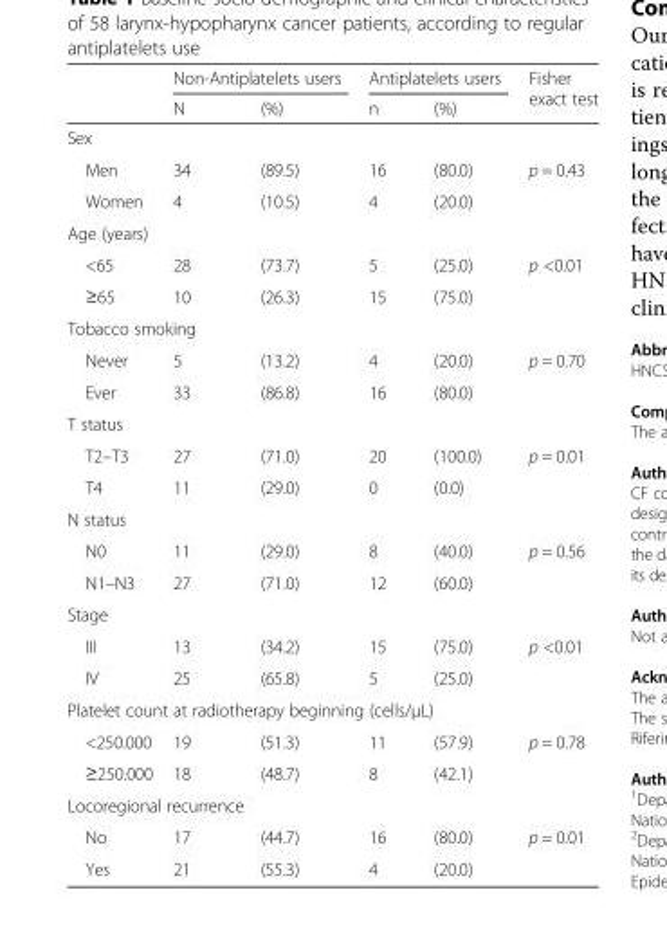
<table><thead><tr><td rowspan="2"></td><td colspan="2">Non-Antiplatelets users</td><td colspan="2">Antiplatelets users</td><td rowspan="2">Fisher exact test</td></tr><tr><td>N</td><td>(%)</td><td>n</td><td>(%)</td></tr></thead><tbody><tr><td colspan="6">Sex</td></tr><tr><td>Men</td><td>34</td><td>(89.5)</td><td>16</td><td>(80.0)</td><td>p = 0.43</td></tr><tr><td>Women</td><td>4</td><td>(10.5)</td><td>4</td><td>(20.0)</td><td></td></tr><tr><td colspan="6">Age (years)</td></tr><tr><td>&lt;65</td><td>28</td><td>(73.7)</td><td>5</td><td>(25.0)</td><td>p &lt;0.01</td></tr><tr><td>≥65</td><td>10</td><td>(26.3)</td><td>15</td><td>(75.0)</td><td></td></tr><tr><td colspan="6">Tobacco smoking</td></tr><tr><td>Never</td><td>5</td><td>(13.2)</td><td>4</td><td>(20.0)</td><td>p = 0.70</td></tr><tr><td>Ever</td><td>33</td><td>(86.8)</td><td>16</td><td>(80.0)</td><td></td></tr><tr><td colspan="6">T status</td></tr><tr><td>T2–T3</td><td>27</td><td>(71.0)</td><td>20</td><td>(100.0)</td><td>p = 0.01</td></tr><tr><td>T4</td><td>11</td><td>(29.0)</td><td>0</td><td>(0.0)</td><td></td></tr><tr><td colspan="6">N status</td></tr><tr><td>N0</td><td>11</td><td>(29.0)</td><td>8</td><td>(40.0)</td><td>p = 0.56</td></tr><tr><td>N1–N3</td><td>27</td><td>(71.0)</td><td>12</td><td>(60.0)</td><td></td></tr><tr><td colspan="6">Stage</td></tr><tr><td>III</td><td>13</td><td>(34.2)</td><td>15</td><td>(75.0)</td><td>p &lt;0.01</td></tr><tr><td>IV</td><td>25</td><td>(65.8)</td><td>5</td><td>(25.0)</td><td></td></tr><tr><td colspan="6">Platelet count at radiotherapy beginning (cells/μL)</td></tr><tr><td>&lt;250.000</td><td>19</td><td>(51.3)</td><td>11</td><td>(57.9)</td><td>p = 0.78</td></tr><tr><td>≥250.000</td><td>18</td><td>(48.7)</td><td>8</td><td>(42.1)</td><td></td></tr><tr><td colspan="6">Locoregional recurrence</td></tr><tr><td>No</td><td>17</td><td>(44.7)</td><td>16</td><td>(80.0)</td><td>p = 0.01</td></tr><tr><td>Yes</td><td>21</td><td>(55.3)</td><td>4</td><td>(20.0)</td><td></td></tr></tbody></table>